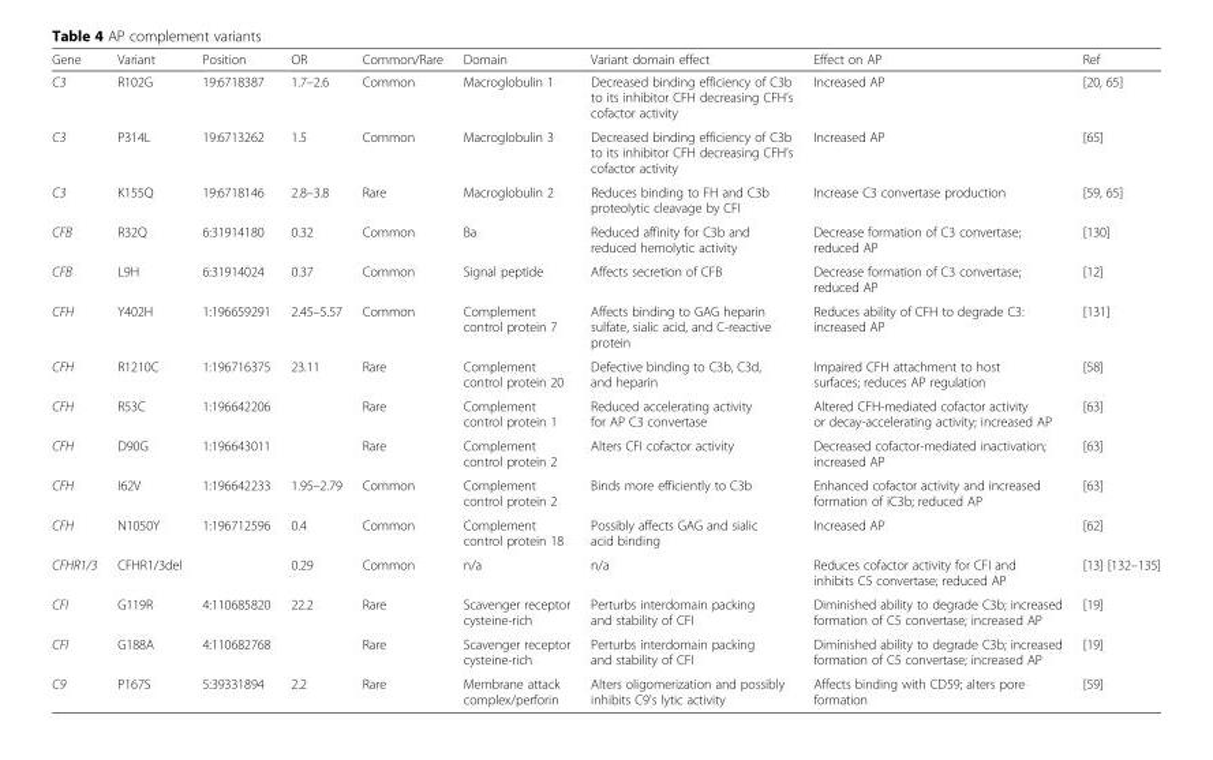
<table><thead><tr><td>Gene</td><td>Variant</td><td>Position</td><td>OR</td><td>Common/Rare</td><td>Domain</td><td>Variant domain effect</td><td>Effect on AP</td><td>Ref</td></tr></thead><tbody><tr><td>C3</td><td>R102G</td><td>19:6718387</td><td>1.7–2.6</td><td>Common</td><td>Macroglobulin 1</td><td>Decreased binding efficiency of C3b to its inhibitor CFH decreasing CFH’s cofactor activity</td><td>Increased AP</td><td>[20, 65]</td></tr><tr><td>C3</td><td>P314L</td><td>19:6713262</td><td>1.5</td><td>Common</td><td>Macroglobulin 3</td><td>Decreased binding efficiency of C3b to its inhibitor CFH decreasing CFH’s cofactor activity</td><td>Increased AP</td><td>[65]</td></tr><tr><td>C3</td><td>K155Q</td><td>19:6718146</td><td>2.8–3.8</td><td>Rare</td><td>Macroglobulin 2</td><td>Reduces binding to FH and C3b proteolytic cleavage by CFI</td><td>Increase C3 convertase production</td><td>[59, 65]</td></tr><tr><td>CFB</td><td>R32Q</td><td>6:31914180</td><td>0.32</td><td>Common</td><td>Ba</td><td>Reduced affinity for C3b and reduced hemolytic activity</td><td>Decrease formation of C3 convertase; reduced AP</td><td>[130]</td></tr><tr><td>CFB</td><td>L9H</td><td>6:31914024</td><td>0.37</td><td>Common</td><td>Signal peptide</td><td>Affects secretion of CFB</td><td>Decrease formation of C3 convertase; reduced AP</td><td>[12]</td></tr><tr><td>CFH</td><td>Y402H</td><td>1:196659291</td><td>2.45–5.57</td><td>Common</td><td>Complement control protein 7</td><td>Affects binding to GAG heparin sulfate, sialic acid, and C-reactive protein</td><td>Reduces ability of CFH to degrade C3: increased AP</td><td>[131]</td></tr><tr><td>CFH</td><td>R1210C</td><td>1:196716375</td><td>23.11</td><td>Rare</td><td>Complement control protein 20</td><td>Defective binding to C3b, C3d, and heparin</td><td>Impaired CFH attachment to host surfaces; reduces AP regulation</td><td>[58]</td></tr><tr><td>CFH</td><td>R53C</td><td>1:196642206</td><td></td><td>Rare</td><td>Complement control protein 1</td><td>Reduced accelerating activity for AP C3 convertase</td><td>Altered CFH-mediated cofactor activity or decay-accelerating activity; increased AP</td><td>[63]</td></tr><tr><td>CFH</td><td>D90G</td><td>1:196643011</td><td></td><td>Rare</td><td>Complement control protein 2</td><td>Alters CFI cofactor activity</td><td>Decreased cofactor-mediated inactivation; increased AP</td><td>[63]</td></tr><tr><td>CFH</td><td>I62V</td><td>1:196642233</td><td>1.95–2.79</td><td>Common</td><td>Complement control protein 2</td><td>Binds more efficiently to C3b</td><td>Enhanced cofactor activity and increased formation of iC3b; reduced AP</td><td>[63]</td></tr><tr><td>CFH</td><td>N1050Y</td><td>1:196712596</td><td>0.4</td><td>Common</td><td>Complement control protein 18</td><td>Possibly affects GAG and sialic acid binding</td><td>Increased AP</td><td>[62]</td></tr><tr><td>CFHR1/3</td><td>CFHR1/3del</td><td></td><td>0.29</td><td>Common</td><td>n/a</td><td>n/a</td><td>Reduces cofactor activity for CFI and inhibits C5 convertase; reduced AP</td><td>[13] [132–135]</td></tr><tr><td>CFI</td><td>G119R</td><td>4:110685820</td><td>22.2</td><td>Rare</td><td>Scavenger receptor cysteine-rich</td><td>Perturbs interdomain packing and stability of CFI</td><td>Diminished ability to degrade C3b; increased formation of C5 convertase; increased AP</td><td>[19]</td></tr><tr><td>CFI</td><td>G188A</td><td>4:110682768</td><td></td><td>Rare</td><td>Scavenger receptor cysteine-rich</td><td>Perturbs interdomain packing and stability of CFI</td><td>Diminished ability to degrade C3b; increased formation of C5 convertase; increased AP</td><td>[19]</td></tr><tr><td>C9</td><td>P167S</td><td>5:39331894</td><td>2.2</td><td>Rare</td><td>Membrane attack complex/perforin</td><td>Alters oligomerization and possibly inhibits C9&#x27;s lytic activity</td><td>Affects binding with CD59; alters pore formation</td><td>[59]</td></tr></tbody></table>